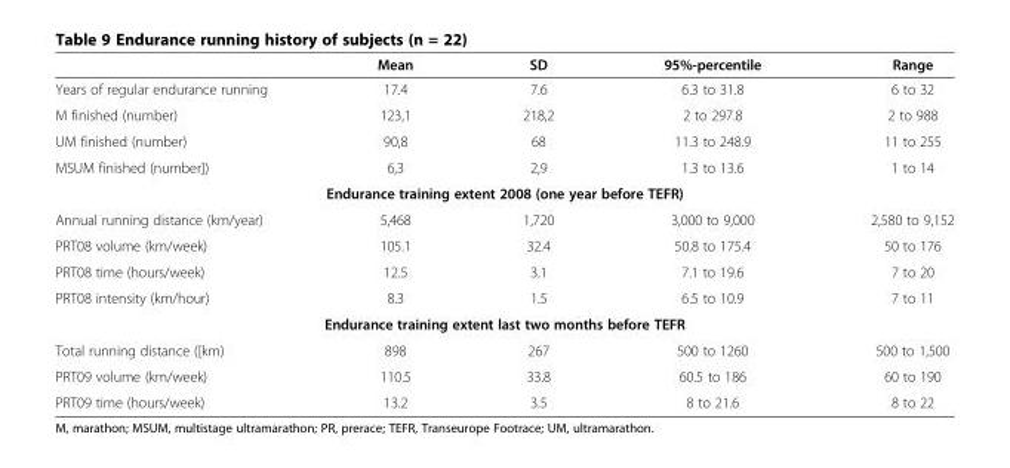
<table><thead><tr><td></td><td>Mean</td><td>SD</td><td>95%-percentile</td><td>Range</td></tr></thead><tbody><tr><td>Years of regular endurance running</td><td>17.4</td><td>7.6</td><td>6.3 to 31.8</td><td>6 to 32</td></tr><tr><td>M finished (number)</td><td>123,1</td><td>218,2</td><td>2 to 297.8</td><td>2 to 988</td></tr><tr><td>UM finished (number)</td><td>90,8</td><td>68</td><td>11.3 to 248.9</td><td>11 to 255</td></tr><tr><td>MSUM finished (number])</td><td>6,3</td><td>2,9</td><td>1.3 to 13.6</td><td>1 to 14</td></tr><tr><td colspan="5">Endurance training extent 2008 (one year before TEFR)</td></tr><tr><td>Annual running distance (km/year)</td><td>5,468</td><td>1,720</td><td>3,000 to 9,000</td><td>2,580 to 9,152</td></tr><tr><td>PRT08 volume (km/week)</td><td>105.1</td><td>32.4</td><td>50.8 to 175.4</td><td>50 to 176</td></tr><tr><td>PRT08 time (hours/week)</td><td>12.5</td><td>3.1</td><td>7.1 to 19.6</td><td>7 to 20</td></tr><tr><td>PRT08 intensity (km/hour)</td><td>8.3</td><td>1.5</td><td>6.5 to 10.9</td><td>7 to 11</td></tr><tr><td colspan="5">Endurance training extent last two months before TEFR</td></tr><tr><td>Total running distance ([km)</td><td>898</td><td>267</td><td>500 to 1260</td><td>500 to 1,500</td></tr><tr><td>PRT09 volume (km/week)</td><td>110.5</td><td>33.8</td><td>60.5 to 186</td><td>60 to 190</td></tr><tr><td>PRT09 time (hours/week)</td><td>13.2</td><td>3.5</td><td>8 to 21.6</td><td>8 to 22</td></tr></tbody></table>